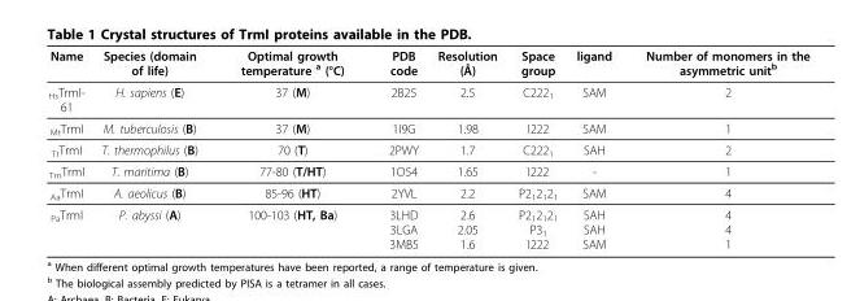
<table><thead><tr><td>Name</td><td>Species (domain of life)</td><td>Optimal growth temperature <sup>a</sup> (°C)</td><td>PDB code</td><td>Resolution (Å)</td><td>Space group</td><td>ligand</td><td>Number of monomers in the asymmetric unit<sup>b</sup></td></tr></thead><tbody><tr><td><sub>Hs</sub>TrmI- 61</td><td>H. sapiens (E)</td><td>37 (M)</td><td>2B25</td><td>2.5</td><td>C222<sub>1</sub></td><td>SAM</td><td>2</td></tr><tr><td><sub>Mt</sub>TrmI</td><td>M. tuberculosis (B)</td><td>37 (M)</td><td>1I9G</td><td>1.98</td><td>I222</td><td>SAM</td><td>1</td></tr><tr><td><sub>Tt</sub>TrmI</td><td>T. thermophilus (B)</td><td>70 (T)</td><td>2PWY</td><td>1.7</td><td>C222<sub>1</sub></td><td>SAH</td><td>2</td></tr><tr><td><sub>Tm</sub>TrmI</td><td>T. maritima (B)</td><td>77-80 (T/HT)</td><td>1O54</td><td>1.65</td><td>I222</td><td>-</td><td>1</td></tr><tr><td><sub>Aa</sub>TrmI</td><td>A. aeolicus (B)</td><td>85-96 (HT)</td><td>2YVL</td><td>2.2</td><td>P2<sub>1</sub>2<sub>1</sub>2<sub>1</sub></td><td>SAM</td><td>4</td></tr><tr><td><sub>Pa</sub>TrmI</td><td>P. abyssi (A)</td><td>100-103 (HT, Ba)</td><td>3LHD 3LGA 3MB5</td><td>2.6 2.05 1.6</td><td>P2<sub>1</sub>2<sub>1</sub>2<sub>1</sub> P3<sub>1</sub> I222</td><td>SAH SAH SAM</td><td>4 4 1</td></tr></tbody></table>